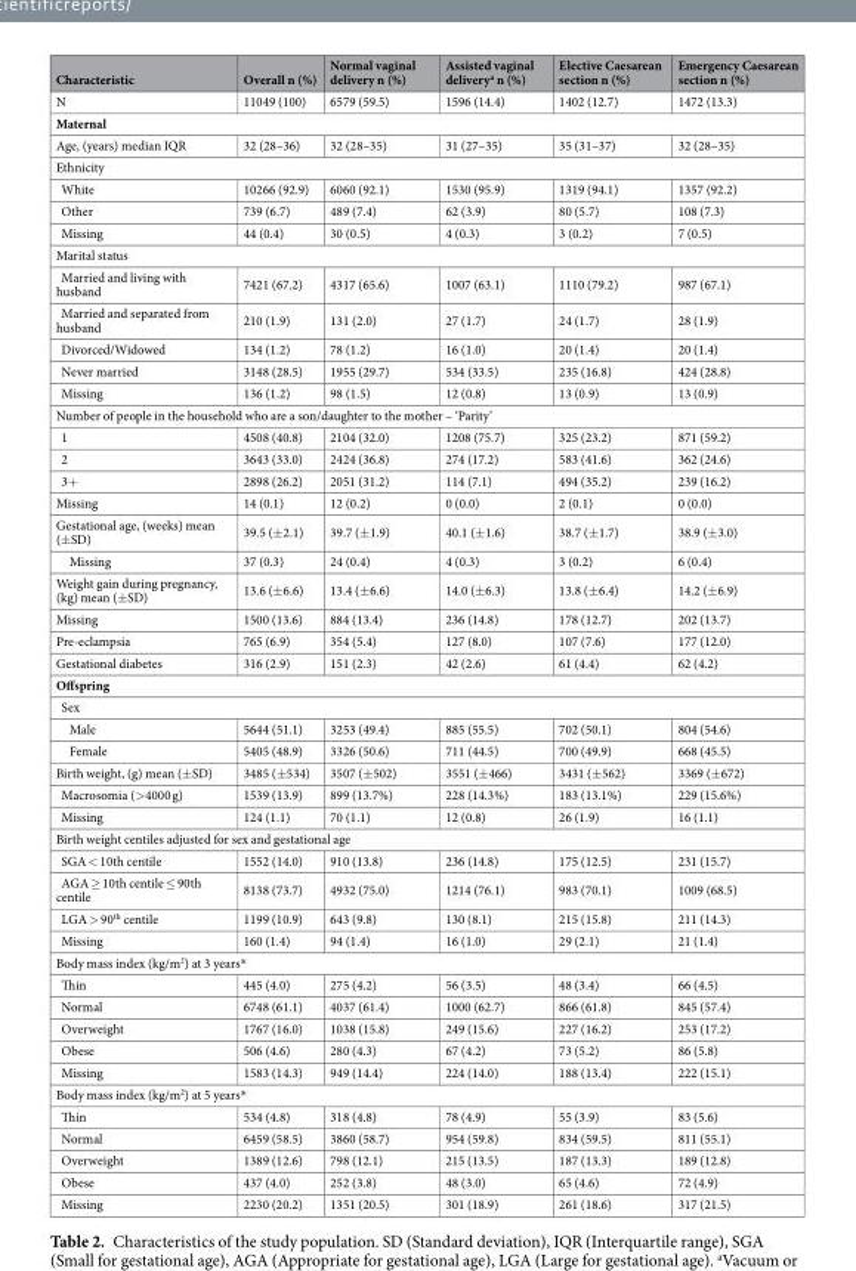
<table><thead><tr><td>Characteristic</td><td>Overall n (%)</td><td>Normal vaginal delivery n (%)</td><td>Assisted vaginal delivery<sup>a</sup> n (%)</td><td>Elective Caesarean section n (%)</td><td>Emergency Caesarean section n (%)</td></tr></thead><tbody><tr><td>N</td><td>11049 (100)</td><td>6579 (59.5)</td><td>1596 (14.4)</td><td>1402 (12.7)</td><td>1472 (13.3)</td></tr><tr><td colspan="6">Maternal</td></tr><tr><td>Age, (years) median IQR</td><td>32 (28–36)</td><td>32 (28–35)</td><td>31 (27–35)</td><td>35 (31–37)</td><td>32 (28–35)</td></tr><tr><td colspan="6">Ethnicity</td></tr><tr><td>White</td><td>10266 (92.9)</td><td>6060 (92.1)</td><td>1530 (95.9)</td><td>1319 (94.1)</td><td>1357 (92.2)</td></tr><tr><td>Other</td><td>739 (6.7)</td><td>489 (7.4)</td><td>62 (3.9)</td><td>80 (5.7)</td><td>108 (7.3)</td></tr><tr><td>Missing</td><td>44 (0.4)</td><td>30 (0.5)</td><td>4 (0.3)</td><td>3 (0.2)</td><td>7 (0.5)</td></tr><tr><td colspan="6">Marital status</td></tr><tr><td>Married and living with husband</td><td>7421 (67.2)</td><td>4317 (65.6)</td><td>1007 (63.1)</td><td>1110 (79.2)</td><td>987 (67.1)</td></tr><tr><td>Married and separated from husband</td><td>210 (1.9)</td><td>131 (2.0)</td><td>27 (1.7)</td><td>24 (1.7)</td><td>28 (1.9)</td></tr><tr><td>Divorced/Widowed</td><td>134 (1.2)</td><td>78 (1.2)</td><td>16 (1.0)</td><td>20 (1.4)</td><td>20 (1.4)</td></tr><tr><td>Never married</td><td>3148 (28.5)</td><td>1955 (29.7)</td><td>534 (33.5)</td><td>235 (16.8)</td><td>424 (28.8)</td></tr><tr><td>Missing</td><td>136 (1.2)</td><td>98 (1.5)</td><td>12 (0.8)</td><td>13 (0.9)</td><td>13 (0.9)</td></tr><tr><td colspan="6">Number of people in the household who are a son/daughter to the mother – ‘Parity’</td></tr><tr><td>1</td><td>4508 (40.8)</td><td>2104 (32.0)</td><td>1208 (75.7)</td><td>325 (23.2)</td><td>871 (59.2)</td></tr><tr><td>2</td><td>3643 (33.0)</td><td>2424 (36.8)</td><td>274 (17.2)</td><td>583 (41.6)</td><td>362 (24.6)</td></tr><tr><td>3+</td><td>2898 (26.2)</td><td>2051 (31.2)</td><td>114 (7.1)</td><td>494 (35.2)</td><td>239 (16.2)</td></tr><tr><td>Missing</td><td>14 (0.1)</td><td>12 (0.2)</td><td>0 (0.0)</td><td>2 (0.1)</td><td>0 (0.0)</td></tr><tr><td>Gestational age, (weeks) mean (±SD)</td><td>39.5 (±2.1)</td><td>39.7 (±1.9)</td><td>40.1 (±1.6)</td><td>38.7 (±1.7)</td><td>38.9 (±3.0)</td></tr><tr><td>Missing</td><td>37 (0.3)</td><td>24 (0.4)</td><td>4 (0.3)</td><td>3 (0.2)</td><td>6 (0.4)</td></tr><tr><td>Weight gain during pregnancy, (kg) mean (±SD)</td><td>13.6 (±6.6)</td><td>13.4 (±6.6)</td><td>14.0 (±6.3)</td><td>13.8 (±6.4)</td><td>14.2 (±6.9)</td></tr><tr><td>Missing</td><td>1500 (13.6)</td><td>884 (13.4)</td><td>236 (14.8)</td><td>178 (12.7)</td><td>202 (13.7)</td></tr><tr><td>Pre-eclampsia</td><td>765 (6.9)</td><td>354 (5.4)</td><td>127 (8.0)</td><td>107 (7.6)</td><td>177 (12.0)</td></tr><tr><td>Gestational diabetes</td><td>316 (2.9)</td><td>151 (2.3)</td><td>42 (2.6)</td><td>61 (4.4)</td><td>62 (4.2)</td></tr><tr><td colspan="6">Offspring</td></tr><tr><td colspan="6">Sex</td></tr><tr><td>Male</td><td>5644 (51.1)</td><td>3253 (49.4)</td><td>885 (55.5)</td><td>702 (50.1)</td><td>804 (54.6)</td></tr><tr><td>Female</td><td>5405 (48.9)</td><td>3326 (50.6)</td><td>711 (44.5)</td><td>700 (49.9)</td><td>668 (45.5)</td></tr><tr><td>Birth weight, (g) mean (±SD)</td><td>3485 (±534)</td><td>3507 (±502)</td><td>3551 (±466)</td><td>3431 (±562)</td><td>3369 (±672)</td></tr><tr><td>Macrosomia (&gt;4000 g)</td><td>1539 (13.9)</td><td>899 (13.7%)</td><td>228 (14.3%)</td><td>183 (13.1%)</td><td>229 (15.6%)</td></tr><tr><td>Missing</td><td>124 (1.1)</td><td>70 (1.1)</td><td>12 (0.8)</td><td>26 (1.9)</td><td>16 (1.1)</td></tr><tr><td colspan="6">Birth weight centiles adjusted for sex and gestational age</td></tr><tr><td>SGA &lt; 10th centile</td><td>1552 (14.0)</td><td>910 (13.8)</td><td>236 (14.8)</td><td>175 (12.5)</td><td>231 (15.7)</td></tr><tr><td>AGA ≥ 10th centile ≤ 90th centile</td><td>8138 (73.7)</td><td>4932 (75.0)</td><td>1214 (76.1)</td><td>983 (70.1)</td><td>1009 (68.5)</td></tr><tr><td>LGA &gt; 90<sup>th</sup> centile</td><td>1199 (10.9)</td><td>643 (9.8)</td><td>130 (8.1)</td><td>215 (15.8)</td><td>211 (14.3)</td></tr><tr><td>Missing</td><td>160 (1.4)</td><td>94 (1.4)</td><td>16 (1.0)</td><td>29 (2.1)</td><td>21 (1.4)</td></tr><tr><td colspan="6">Body mass index (kg/m<sup>2</sup>) at 3 years*</td></tr><tr><td>Thin</td><td>445 (4.0)</td><td>275 (4.2)</td><td>56 (3.5)</td><td>48 (3.4)</td><td>66 (4.5)</td></tr><tr><td>Normal</td><td>6748 (61.1)</td><td>4037 (61.4)</td><td>1000 (62.7)</td><td>866 (61.8)</td><td>845 (57.4)</td></tr><tr><td>Overweight</td><td>1767 (16.0)</td><td>1038 (15.8)</td><td>249 (15.6)</td><td>227 (16.2)</td><td>253 (17.2)</td></tr><tr><td>Obese</td><td>506 (4.6)</td><td>280 (4.3)</td><td>67 (4.2)</td><td>73 (5.2)</td><td>86 (5.8)</td></tr><tr><td>Missing</td><td>1583 (14.3)</td><td>949 (14.4)</td><td>224 (14.0)</td><td>188 (13.4)</td><td>222 (15.1)</td></tr><tr><td colspan="6">Body mass index (kg/m<sup>2</sup>) at 5 years*</td></tr><tr><td>Thin</td><td>534 (4.8)</td><td>318 (4.8)</td><td>78 (4.9)</td><td>55 (3.9)</td><td>83 (5.6)</td></tr><tr><td>Normal</td><td>6459 (58.5)</td><td>3860 (58.7)</td><td>954 (59.8)</td><td>834 (59.5)</td><td>811 (55.1)</td></tr><tr><td>Overweight</td><td>1389 (12.6)</td><td>798 (12.1)</td><td>215 (13.5)</td><td>187 (13.3)</td><td>189 (12.8)</td></tr><tr><td>Obese</td><td>437 (4.0)</td><td>252 (3.8)</td><td>48 (3.0)</td><td>65 (4.6)</td><td>72 (4.9)</td></tr><tr><td>Missing</td><td>2230 (20.2)</td><td>1351 (20.5)</td><td>301 (18.9)</td><td>261 (18.6)</td><td>317 (21.5)</td></tr></tbody></table>